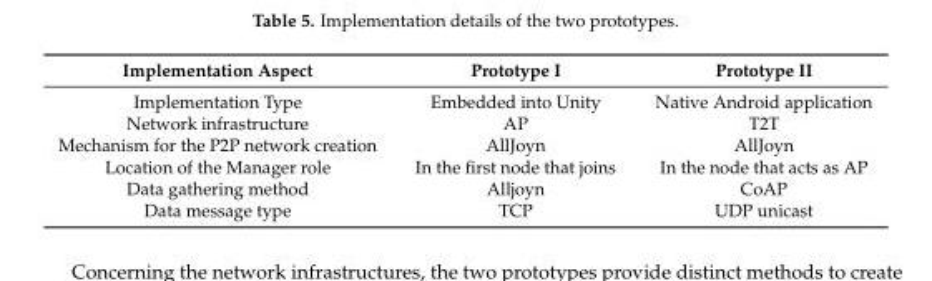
<table><thead><tr><td>Implementation Aspect</td><td>Prototype I</td><td>Prototype II</td></tr></thead><tbody><tr><td>Implementation Type</td><td>Embedded into Unity</td><td>Native Android application</td></tr><tr><td>Network infrastructure</td><td>AP</td><td>T2T</td></tr><tr><td>Mechanism for the P2P network creation</td><td>AllJoyn</td><td>AllJoyn</td></tr><tr><td>Location of the Manager role</td><td>In the first node that joins</td><td>In the node that acts as AP</td></tr><tr><td>Data gathering method</td><td>Alljoyn</td><td>CoAP</td></tr><tr><td>Data message type</td><td>TCP</td><td>UDP unicast</td></tr></tbody></table>